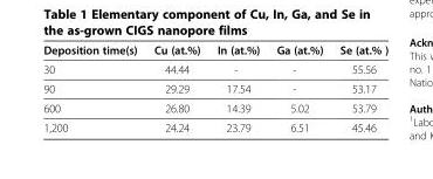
<table><thead><tr><td>Deposition time(s)</td><td>Cu (at.%)</td><td>In (at.%)</td><td>Ga (at.%)</td><td>Se (at.% )</td></tr></thead><tbody><tr><td>30</td><td>44.44</td><td>-</td><td>-</td><td>55.56</td></tr><tr><td>90</td><td>29.29</td><td>17.54</td><td>-</td><td>53.17</td></tr><tr><td>600</td><td>26.80</td><td>14.39</td><td>5.02</td><td>53.79</td></tr><tr><td>1,200</td><td>24.24</td><td>23.79</td><td>6.51</td><td>45.46</td></tr></tbody></table>